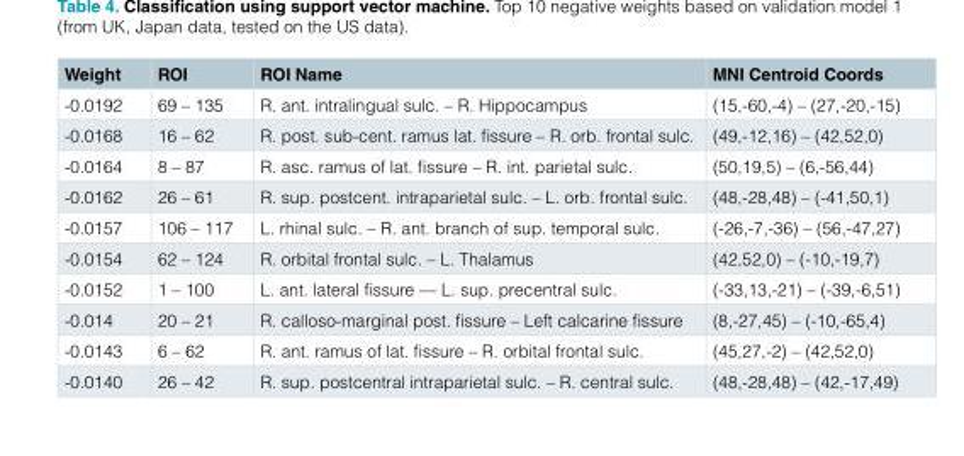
<table><thead><tr><td>Weight</td><td>ROI</td><td>ROI Name</td><td>MNI Centroid Coords</td></tr></thead><tbody><tr><td>-0.0192</td><td>69 – 135</td><td>R. ant. intralingual sulc. – R. Hippocampus</td><td>(15,-60,-4) – (27,-20,-15)</td></tr><tr><td>-0.0168</td><td>16 – 62</td><td>R. post. sub-cent. ramus lat. fissure – R. orb. frontal sulc.</td><td>(49,-12,16) – (42,52,0)</td></tr><tr><td>-0.0164</td><td>8 – 87</td><td>R. asc. ramus of lat. fissure – R. int. parietal sulc.</td><td>(50,19,5) – (6,-56,44)</td></tr><tr><td>-0.0162</td><td>26 – 61</td><td>R. sup. postcent. intraparietal sulc. – L. orb. frontal sulc.</td><td>(48,-28,48) – (-41,50,1)</td></tr><tr><td>-0.0157</td><td>106 – 117</td><td>L. rhinal sulc. – R. ant. branch of sup. temporal sulc.</td><td>(-26,-7,-36) – (56,-47,27)</td></tr><tr><td>-0.0154</td><td>62 – 124</td><td>R. orbital frontal sulc. – L. Thalamus</td><td>(42,52,0) – (-10,-19,7)</td></tr><tr><td>-0.0152</td><td>1 – 100</td><td>L. ant. lateral fissure — L. sup. precentral sulc.</td><td>(-33,13,-21) – (-39,-6,51)</td></tr><tr><td>-0.014</td><td>20 – 21</td><td>R. calloso-marginal post. fissure – Left calcarine fissure</td><td>(8,-27,45) – (-10,-65,4)</td></tr><tr><td>-0.0143</td><td>6 – 62</td><td>R. ant. ramus of lat. fissure – R. orbital frontal sulc.</td><td>(45,27,-2) – (42,52,0)</td></tr><tr><td>-0.0140</td><td>26 – 42</td><td>R. sup. postcentral intraparietal sulc. – R. central sulc.</td><td>(48,-28,48) – (42,-17,49)</td></tr></tbody></table>